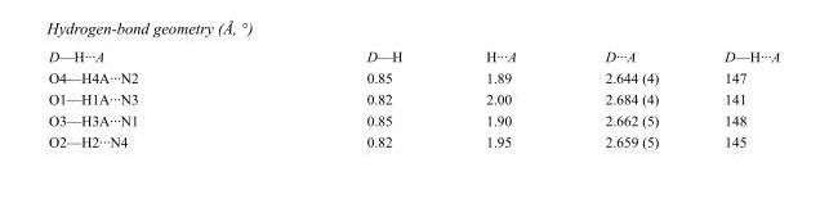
<table><tbody><tr><td>D—H···A</td><td>D—H</td><td>H···A</td><td>D···A</td><td>D—H···A</td></tr><tr><td>O4—H4A···N2</td><td>0.85</td><td>1.89</td><td>2.644 (4)</td><td>147</td></tr><tr><td>O1—H1A···N3</td><td>0.82</td><td>2.00</td><td>2.684 (4)</td><td>141</td></tr><tr><td>O3—H3A···N1</td><td>0.85</td><td>1.90</td><td>2.662 (5)</td><td>148</td></tr><tr><td>O2—H2···N4</td><td>0.82</td><td>1.95</td><td>2.659 (5)</td><td>145</td></tr></tbody></table>